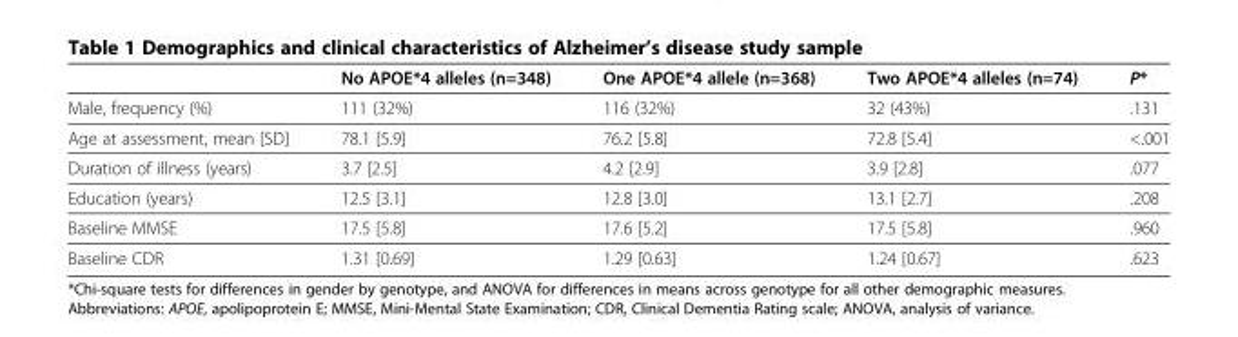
<table><thead><tr><td></td><td>No APOE*4 alleles (n=348)</td><td>One APOE*4 allele (n=368)</td><td>Two APOE*4 alleles (n=74)</td><td>P*</td></tr></thead><tbody><tr><td>Male, frequency (%)</td><td>111 (32%)</td><td>116 (32%)</td><td>32 (43%)</td><td>.131</td></tr><tr><td>Age at assessment, mean [SD]</td><td>78.1 [5.9]</td><td>76.2 [5.8]</td><td>72.8 [5.4]</td><td>&lt;.001</td></tr><tr><td>Duration of illness (years)</td><td>3.7 [2.5]</td><td>4.2 [2.9]</td><td>3.9 [2.8]</td><td>.077</td></tr><tr><td>Education (years)</td><td>12.5 [3.1]</td><td>12.8 [3.0]</td><td>13.1 [2.7]</td><td>.208</td></tr><tr><td>Baseline MMSE</td><td>17.5 [5.8]</td><td>17.6 [5.2]</td><td>17.5 [5.8]</td><td>.960</td></tr><tr><td>Baseline CDR</td><td>1.31 [0.69]</td><td>1.29 [0.63]</td><td>1.24 [0.67]</td><td>.623</td></tr></tbody></table>